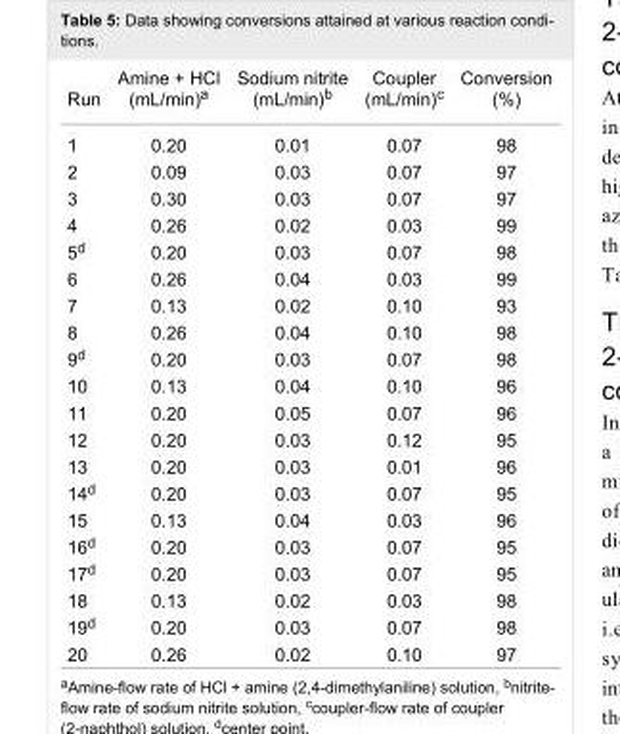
<table><tbody><tr><td>Run</td><td>Amine + HCl (mL/min)<sup>a</sup></td><td>Sodium nitrite (mL/min)<sup>b</sup></td><td>Coupler (mL/min)<sup>c</sup></td><td>Conversion (%)</td></tr><tr><td>1</td><td>0.20</td><td>0.01</td><td>0.07</td><td>98</td></tr><tr><td>2</td><td>0.09</td><td>0.03</td><td>0.07</td><td>97</td></tr><tr><td>3</td><td>0.30</td><td>0.03</td><td>0.07</td><td>97</td></tr><tr><td>4</td><td>0.26</td><td>0.02</td><td>0.03</td><td>99</td></tr><tr><td>5<sup>d</sup></td><td>0.20</td><td>0.03</td><td>0.07</td><td>98</td></tr><tr><td>6</td><td>0.26</td><td>0.04</td><td>0.03</td><td>99</td></tr><tr><td>7</td><td>0.13</td><td>0.02</td><td>0.10</td><td>93</td></tr><tr><td>8</td><td>0.26</td><td>0.04</td><td>0.10</td><td>98</td></tr><tr><td>9<sup>d</sup></td><td>0.20</td><td>0.03</td><td>0.07</td><td>98</td></tr><tr><td>10</td><td>0.13</td><td>0.04</td><td>0.10</td><td>96</td></tr><tr><td>11</td><td>0.20</td><td>0.05</td><td>0.07</td><td>96</td></tr><tr><td>12</td><td>0.20</td><td>0.03</td><td>0.12</td><td>95</td></tr><tr><td>13</td><td>0.20</td><td>0.03</td><td>0.01</td><td>96</td></tr><tr><td>14<sup>d</sup></td><td>0.20</td><td>0.03</td><td>0.07</td><td>95</td></tr><tr><td>15</td><td>0.13</td><td>0.04</td><td>0.03</td><td>96</td></tr><tr><td>16<sup>d</sup></td><td>0.20</td><td>0.03</td><td>0.07</td><td>95</td></tr><tr><td>17<sup>d</sup></td><td>0.20</td><td>0.03</td><td>0.07</td><td>95</td></tr><tr><td>18</td><td>0.13</td><td>0.02</td><td>0.03</td><td>98</td></tr><tr><td>19<sup>d</sup></td><td>0.20</td><td>0.03</td><td>0.07</td><td>98</td></tr><tr><td>20</td><td>0.26</td><td>0.02</td><td>0.10</td><td>97</td></tr></tbody></table>